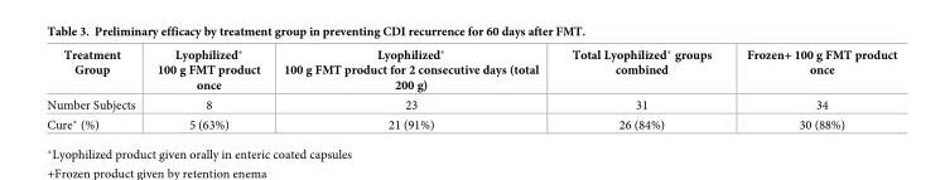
<table><thead><tr><td>Treatment Group</td><td>Lyophilized* 100 g FMT product once</td><td>Lyophilized* 100 g FMT product for 2 consecutive days (total 200 g)</td><td>Total Lyophilized* groups combined</td><td>Frozen+ 100 g FMT product once</td></tr></thead><tbody><tr><td>Number Subjects</td><td>8</td><td>23</td><td>31</td><td>34</td></tr><tr><td>Cure* (%)</td><td>5 (63%)</td><td>21 (91%)</td><td>26 (84%)</td><td>30 (88%)</td></tr></tbody></table>